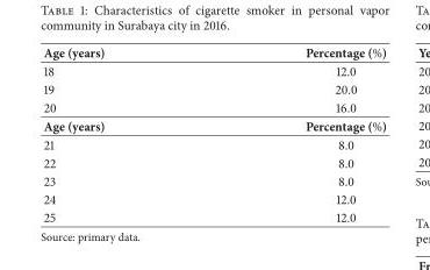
<table><tbody><tr><td>Age (years)</td><td>Percentage (%)</td></tr><tr><td>18</td><td>12.0</td></tr><tr><td>19</td><td>20.0</td></tr><tr><td>20</td><td>16.0</td></tr><tr><td>Age (years)</td><td>Percentage (%)</td></tr><tr><td>21</td><td>8.0</td></tr><tr><td>22</td><td>8.0</td></tr><tr><td>23</td><td>8.0</td></tr><tr><td>24</td><td>12.0</td></tr><tr><td>25</td><td>12.0</td></tr></tbody></table>